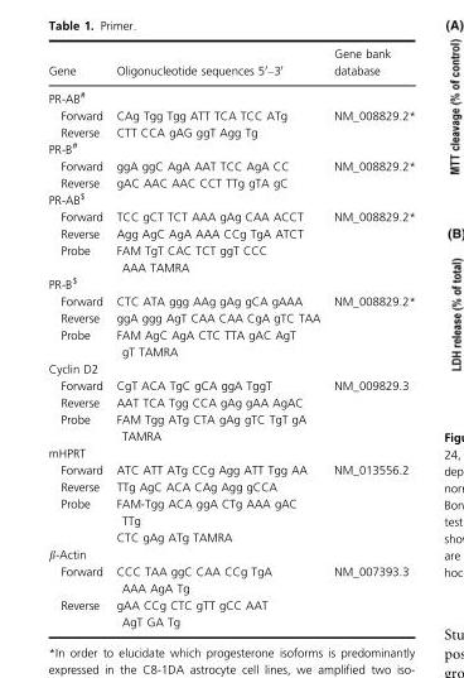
<table><thead><tr><td>Gene</td><td>Oligonucleotide sequences 5′–3′</td><td>Gene bank database</td></tr></thead><tbody><tr><td colspan="3">PR-AB#</td></tr><tr><td>Forward</td><td>CAg Tgg Tgg ATT TCA TCC ATg</td><td rowspan="2">NM_008829.2*</td></tr><tr><td>Reverse</td><td>CTT CCA gAG ggT Agg Tg</td></tr><tr><td colspan="3">PR-B#</td></tr><tr><td>Forward</td><td>ggA ggC AgA AAT TCC AgA CC</td><td rowspan="2">NM_008829.2*</td></tr><tr><td>Reverse</td><td>gAC AAC AAC CCT TTg gTA gC</td></tr><tr><td colspan="3">PR-AB$</td></tr><tr><td>Forward</td><td>TCC gCT TCT AAA gAg CAA ACCT</td><td rowspan="3">NM_008829.2*</td></tr><tr><td>Reverse</td><td>Agg AgC AgA AAA CCg TgA ATCT</td></tr><tr><td>Probe</td><td>FAM TgT CAC TCT ggT CCC AAA TAMRA</td></tr><tr><td colspan="3">PR-B$</td></tr><tr><td>Forward</td><td>CTC ATA ggg AAg gAg gCA gAAA</td><td rowspan="3">NM_008829.2*</td></tr><tr><td>Reverse</td><td>ggA ggg AgT CAA CAA CgA gTC TAA</td></tr><tr><td>Probe</td><td>FAM AgC AgA CTC TTA gAC AgT gT TAMRA</td></tr><tr><td colspan="3">Cyclin D2</td></tr><tr><td>Forward</td><td>CgT ACA TgC gCA ggA TggT</td><td rowspan="3">NM_009829.3</td></tr><tr><td>Reverse</td><td>AAT TCA Tgg CCA gAg gAA AgAC</td></tr><tr><td>Probe</td><td>FAM Tgg ATg CTA gAg gTC TgT gA TAMRA</td></tr><tr><td colspan="3">mHPRT</td></tr><tr><td>Forward</td><td>ATC ATT ATg CCg Agg ATT Tgg AA</td><td rowspan="4">NM_013556.2</td></tr><tr><td>Reverse</td><td>TTg AgC ACA CAg Agg gCCA</td></tr><tr><td rowspan="2">Probe</td><td>FAM-Tgg ACA ggA CTg AAA gAC TTg</td></tr><tr><td>CTC gAg ATg TAMRA</td></tr><tr><td colspan="3">β-Actin</td></tr><tr><td>Forward</td><td>CCC TAA ggC CAA CCg TgA AAA AgA Tg</td><td rowspan="2">NM_007393.3</td></tr><tr><td>Reverse</td><td>gAA CCg CTC gTT gCC AAT AgT GA Tg</td></tr></tbody></table>